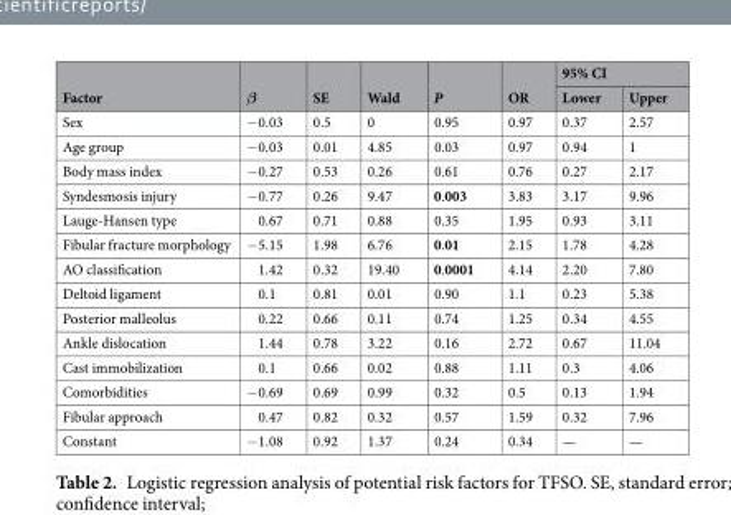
<table><thead><tr><td rowspan="2">Factor</td><td rowspan="2">β</td><td rowspan="2">SE</td><td rowspan="2">Wald</td><td rowspan="2">P</td><td rowspan="2">OR</td><td colspan="2">95% CI</td></tr><tr><td>Lower</td><td>Upper</td></tr></thead><tbody><tr><td>Sex</td><td>−0.03</td><td>0.5</td><td>0</td><td>0.95</td><td>0.97</td><td>0.37</td><td>2.57</td></tr><tr><td>Age group</td><td>−0.03</td><td>0.01</td><td>4.85</td><td>0.03</td><td>0.97</td><td>0.94</td><td>1</td></tr><tr><td>Body mass index</td><td>−0.27</td><td>0.53</td><td>0.26</td><td>0.61</td><td>0.76</td><td>0.27</td><td>2.17</td></tr><tr><td>Syndesmosis injury</td><td>−0.77</td><td>0.26</td><td>9.47</td><td>0.003</td><td>3.83</td><td>3.17</td><td>9.96</td></tr><tr><td>Lauge-Hansen type</td><td>0.67</td><td>0.71</td><td>0.88</td><td>0.35</td><td>1.95</td><td>0.93</td><td>3.11</td></tr><tr><td>Fibular fracture morphology</td><td>−5.15</td><td>1.98</td><td>6.76</td><td>0.01</td><td>2.15</td><td>1.78</td><td>4.28</td></tr><tr><td>AO classification</td><td>1.42</td><td>0.32</td><td>19.40</td><td>0.0001</td><td>4.14</td><td>2.20</td><td>7.80</td></tr><tr><td>Deltoid ligament</td><td>0.1</td><td>0.81</td><td>0.01</td><td>0.90</td><td>1.1</td><td>0.23</td><td>5.38</td></tr><tr><td>Posterior malleolus</td><td>0.22</td><td>0.66</td><td>0.11</td><td>0.74</td><td>1.25</td><td>0.34</td><td>4.55</td></tr><tr><td>Ankle dislocation</td><td>1.44</td><td>0.78</td><td>3.22</td><td>0.16</td><td>2.72</td><td>0.67</td><td>11.04</td></tr><tr><td>Cast immobilization</td><td>0.1</td><td>0.66</td><td>0.02</td><td>0.88</td><td>1.11</td><td>0.3</td><td>4.06</td></tr><tr><td>Comorbidities</td><td>−0.69</td><td>0.69</td><td>0.99</td><td>0.32</td><td>0.5</td><td>0.13</td><td>1.94</td></tr><tr><td>Fibular approach</td><td>0.47</td><td>0.82</td><td>0.32</td><td>0.57</td><td>1.59</td><td>0.32</td><td>7.96</td></tr><tr><td>Constant</td><td>−1.08</td><td>0.92</td><td>1.37</td><td>0.24</td><td>0.34</td><td>—</td><td>—</td></tr></tbody></table>